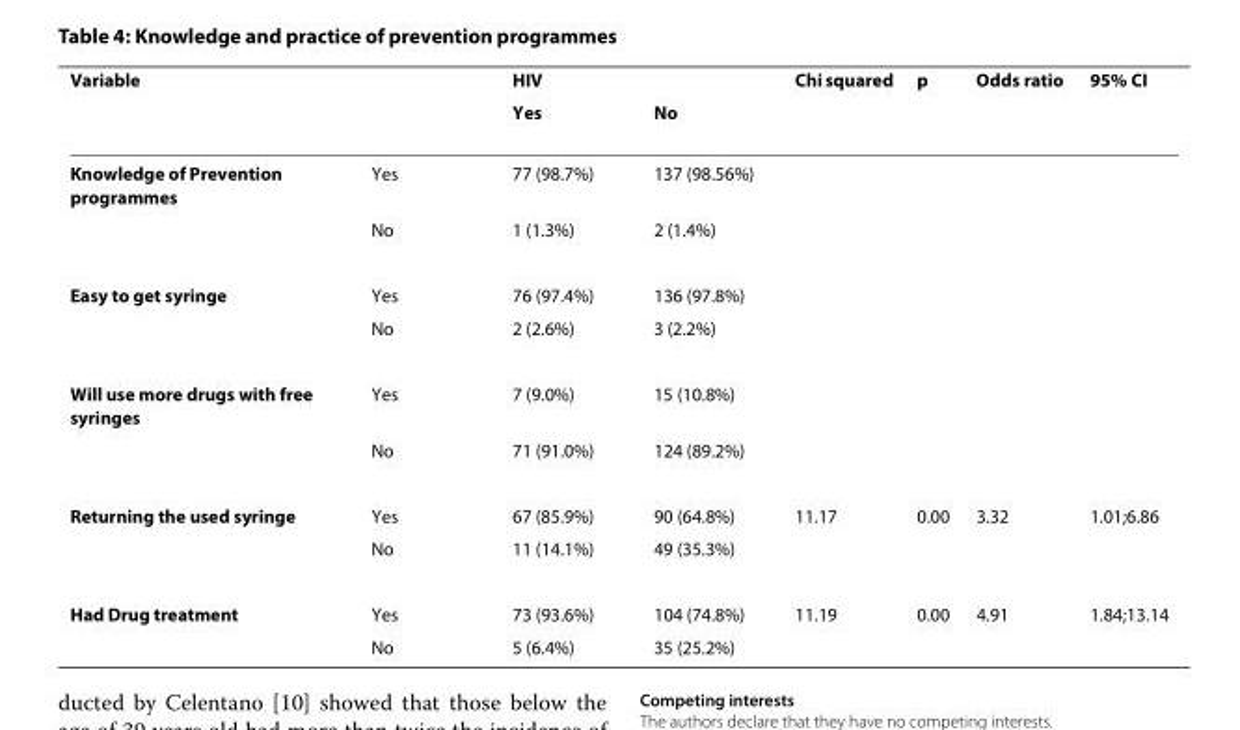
<table><thead><tr><td rowspan="2">Variable</td><td rowspan="2"></td><td rowspan="2">HIV Yes</td><td rowspan="2">No</td><td rowspan="2">Chi squared</td><td rowspan="2">p</td><td rowspan="2">Odds ratio</td><td rowspan="2">95% CI</td></tr><tr></tr></thead><tbody><tr><td rowspan="2">Knowledge of Prevention programmes</td><td>Yes</td><td>77 (98.7%)</td><td>137 (98.56%)</td><td></td><td></td><td></td><td></td></tr><tr><td>No</td><td>1 (1.3%)</td><td>2 (1.4%)</td><td></td><td></td><td></td><td></td></tr><tr><td rowspan="2">Easy to get syringe</td><td>Yes</td><td>76 (97.4%)</td><td>136 (97.8%)</td><td></td><td></td><td></td><td></td></tr><tr><td>No</td><td>2 (2.6%)</td><td>3 (2.2%)</td><td></td><td></td><td></td><td></td></tr><tr><td rowspan="2">Will use more drugs with free syringes</td><td>Yes</td><td>7 (9.0%)</td><td>15 (10.8%)</td><td></td><td></td><td></td><td></td></tr><tr><td>No</td><td>71 (91.0%)</td><td>124 (89.2%)</td><td></td><td></td><td></td><td></td></tr><tr><td rowspan="2">Returning the used syringe</td><td>Yes</td><td>67 (85.9%)</td><td>90 (64.8%)</td><td>11.17</td><td>0.00</td><td>3.32</td><td>1.01;6.86</td></tr><tr><td>No</td><td>11 (14.1%)</td><td>49 (35.3%)</td><td></td><td></td><td></td><td></td></tr><tr><td rowspan="2">Had Drug treatment</td><td>Yes</td><td>73 (93.6%)</td><td>104 (74.8%)</td><td>11.19</td><td>0.00</td><td>4.91</td><td>1.84;13.14</td></tr><tr><td>No</td><td>5 (6.4%)</td><td>35 (25.2%)</td><td></td><td></td><td></td><td></td></tr></tbody></table>